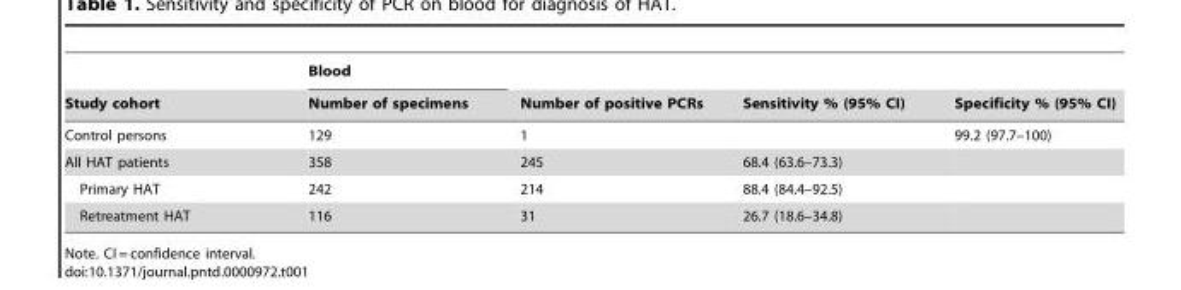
<table><thead><tr><td rowspan="2">Study cohort</td><td rowspan="2">Blood Number of specimens</td><td rowspan="2">Number of positive PCRs</td><td rowspan="2">Sensitivity % (95% CI)</td><td rowspan="2">Specificity % (95% CI)</td></tr><tr></tr></thead><tbody><tr><td>Control persons</td><td>129</td><td>1</td><td></td><td>99.2 (97.7–100)</td></tr><tr><td>All HAT patients</td><td>358</td><td>245</td><td>68.4 (63.6–73.3)</td><td></td></tr><tr><td>Primary HAT</td><td>242</td><td>214</td><td>88.4 (84.4–92.5)</td><td></td></tr><tr><td>Retreatment HAT</td><td>116</td><td>31</td><td>26.7 (18.6–34.8)</td><td></td></tr></tbody></table>